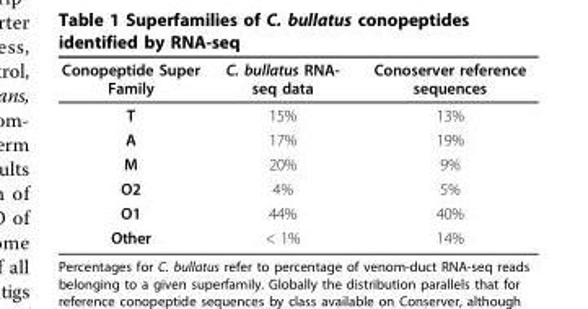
<table><thead><tr><td>Conopeptide Super Family</td><td>C. bullatus RNA- seq data</td><td>Conoserver reference sequences</td></tr></thead><tbody><tr><td>T</td><td>15%</td><td>13%</td></tr><tr><td>A</td><td>17%</td><td>19%</td></tr><tr><td>M</td><td>20%</td><td>9%</td></tr><tr><td>O2</td><td>4%</td><td>5%</td></tr><tr><td>O1</td><td>44%</td><td>40%</td></tr><tr><td>Other</td><td>&lt; 1%</td><td>14%</td></tr></tbody></table>